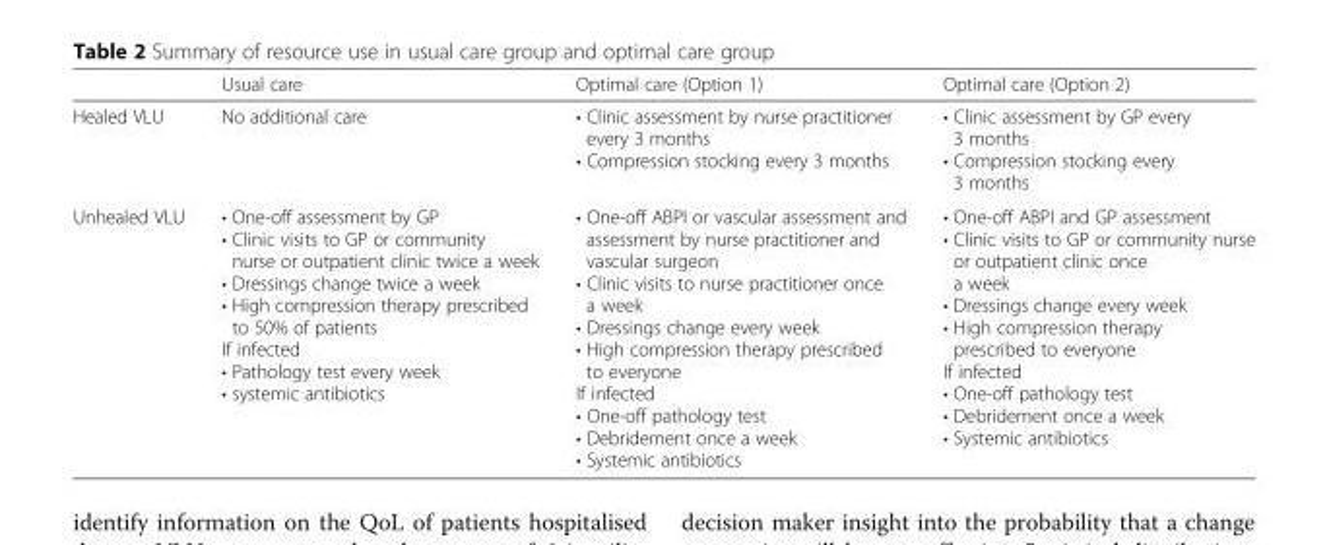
<table><thead><tr><td></td><td>Usual care</td><td>Optimal care (Option 1)</td><td>Optimal care (Option 2)</td></tr></thead><tbody><tr><td>Healed VLU</td><td>No additional care</td><td>• Clinic assessment by nurse practitioner every 3 months • Compression stocking every 3 months</td><td>• Clinic assessment by GP every 3 months • Compression stocking every 3 months</td></tr><tr><td>Unhealed VLU</td><td>• One-off assessment by GP • Clinic visits to GP or community nurse or outpatient clinic twice a week • Dressings change twice a week • High compression therapy prescribed to 50% of patients If infected • Pathology test every week • systemic antibiotics</td><td>• One-off ABPI or vascular assessment and assessment by nurse practitioner and vascular surgeon • Clinic visits to nurse practitioner once a week • Dressings change every week • High compression therapy prescribed to everyone If infected • One-off pathology test • Debridement once a week • Systemic antibiotics</td><td>• One-off ABPI and GP assessment • Clinic visits to GP or community nurse or outpatient clinic once a week • Dressings change every week • High compression therapy prescribed to everyone If infected • One-off pathology test • Debridement once a week • Systemic antibiotics</td></tr></tbody></table>